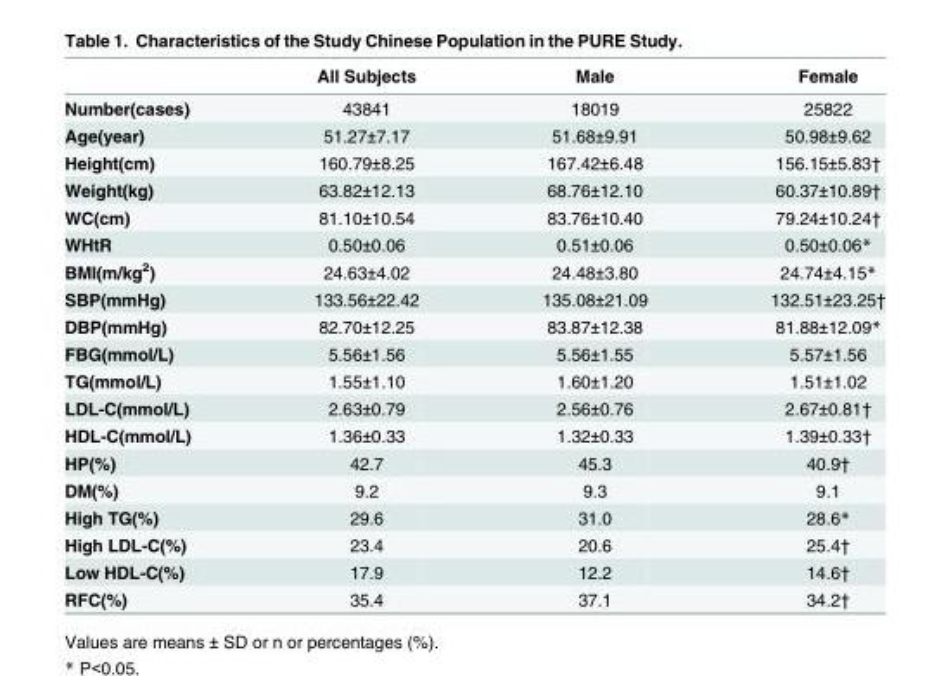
<table><thead><tr><td></td><td>All Subjects</td><td>Male</td><td>Female</td></tr></thead><tbody><tr><td>Number(cases)</td><td>43841</td><td>18019</td><td>25822</td></tr><tr><td>Age(year)</td><td>51.27±7.17</td><td>51.68±9.91</td><td>50.98±9.62</td></tr><tr><td>Height(cm)</td><td>160.79±8.25</td><td>167.42±6.48</td><td>156.15±5.83†</td></tr><tr><td>Weight(kg)</td><td>63.82±12.13</td><td>68.76±12.10</td><td>60.37±10.89†</td></tr><tr><td>WC(cm)</td><td>81.10±10.54</td><td>83.76±10.40</td><td>79.24±10.24†</td></tr><tr><td>WHtR</td><td>0.50±0.06</td><td>0.51±0.06</td><td>0.50±0.06*</td></tr><tr><td>BMI(m/kg<sup>2</sup>)</td><td>24.63±4.02</td><td>24.48±3.80</td><td>24.74±4.15*</td></tr><tr><td>SBP(mmHg)</td><td>133.56±22.42</td><td>135.08±21.09</td><td>132.51±23.25†</td></tr><tr><td>DBP(mmHg)</td><td>82.70±12.25</td><td>83.87±12.38</td><td>81.88±12.09*</td></tr><tr><td>FBG(mmol/L)</td><td>5.56±1.56</td><td>5.56±1.55</td><td>5.57±1.56</td></tr><tr><td>TG(mmol/L)</td><td>1.55±1.10</td><td>1.60±1.20</td><td>1.51±1.02</td></tr><tr><td>LDL-C(mmol/L)</td><td>2.63±0.79</td><td>2.56±0.76</td><td>2.67±0.81†</td></tr><tr><td>HDL-C(mmol/L)</td><td>1.36±0.33</td><td>1.32±0.33</td><td>1.39±0.33†</td></tr><tr><td>HP(%)</td><td>42.7</td><td>45.3</td><td>40.9†</td></tr><tr><td>DM(%)</td><td>9.2</td><td>9.3</td><td>9.1</td></tr><tr><td>High TG(%)</td><td>29.6</td><td>31.0</td><td>28.6*</td></tr><tr><td>High LDL-C(%)</td><td>23.4</td><td>20.6</td><td>25.4†</td></tr><tr><td>Low HDL-C(%)</td><td>17.9</td><td>12.2</td><td>14.6†</td></tr><tr><td>RFC(%)</td><td>35.4</td><td>37.1</td><td>34.2†</td></tr></tbody></table>